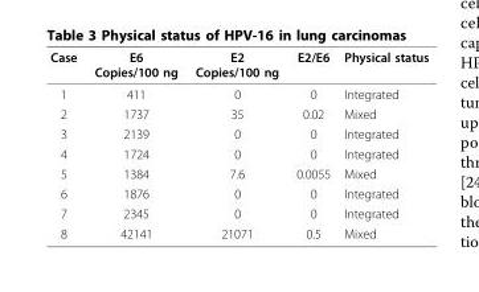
<table><thead><tr><td>Case</td><td>E6 Copies/100 ng</td><td>E2 Copies/100 ng</td><td>E2/E6</td><td>Physical status</td></tr></thead><tbody><tr><td>1</td><td>411</td><td>0</td><td>0</td><td>Integrated</td></tr><tr><td>2</td><td>1737</td><td>35</td><td>0.02</td><td>Mixed</td></tr><tr><td>3</td><td>2139</td><td>0</td><td>0</td><td>Integrated</td></tr><tr><td>4</td><td>1724</td><td>0</td><td>0</td><td>Integrated</td></tr><tr><td>5</td><td>1384</td><td>7.6</td><td>0.0055</td><td>Mixed</td></tr><tr><td>6</td><td>1876</td><td>0</td><td>0</td><td>Integrated</td></tr><tr><td>7</td><td>2345</td><td>0</td><td>0</td><td>Integrated</td></tr><tr><td>8</td><td>42141</td><td>21071</td><td>0.5</td><td>Mixed</td></tr></tbody></table>